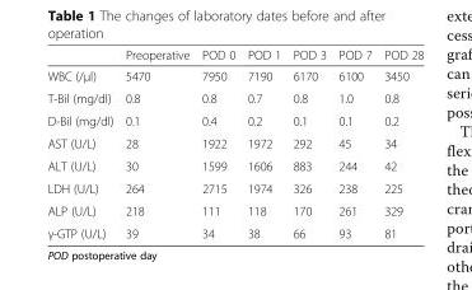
<table><thead><tr><td></td><td>Preoperative</td><td>POD 0</td><td>POD 1</td><td>POD 3</td><td>POD 7</td><td>POD 28</td></tr></thead><tbody><tr><td>WBC (/μl)</td><td>5470</td><td>7950</td><td>7190</td><td>6170</td><td>6100</td><td>3450</td></tr><tr><td>T-Bil (mg/dl)</td><td>0.8</td><td>0.8</td><td>0.7</td><td>0.8</td><td>1.0</td><td>0.8</td></tr><tr><td>D-Bil (mg/dl)</td><td>0.1</td><td>0.4</td><td>0.2</td><td>0.1</td><td>0.1</td><td>0.2</td></tr><tr><td>AST (U/L)</td><td>28</td><td>1922</td><td>1972</td><td>292</td><td>45</td><td>34</td></tr><tr><td>ALT (U/L)</td><td>30</td><td>1599</td><td>1606</td><td>883</td><td>244</td><td>42</td></tr><tr><td>LDH (U/L)</td><td>264</td><td>2715</td><td>1974</td><td>326</td><td>238</td><td>225</td></tr><tr><td>ALP (U/L)</td><td>218</td><td>111</td><td>118</td><td>170</td><td>261</td><td>329</td></tr><tr><td>γ-GTP (U/L)</td><td>39</td><td>34</td><td>38</td><td>66</td><td>93</td><td>81</td></tr></tbody></table>